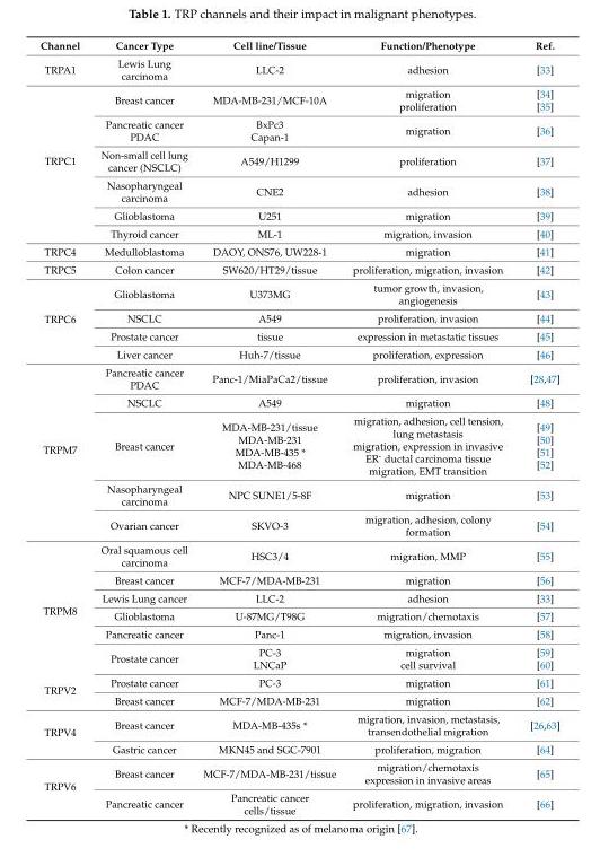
<table><thead><tr><td>Channel</td><td>Cancer Type</td><td>Cell line/Tissue</td><td>Function/Phenotype</td><td>Ref.</td></tr></thead><tbody><tr><td>TRPA1</td><td>Lewis Lung carcinoma</td><td>LLC-2</td><td>adhesion</td><td>[33]</td></tr><tr><td rowspan="6">TRPC1</td><td>Breast cancer</td><td>MDA-MB-231/MCF-10A</td><td>migration proliferation</td><td>[34] [35]</td></tr><tr><td>Pancreatic cancer PDAC</td><td>BxPc3 Capan-1</td><td>migration</td><td>[36]</td></tr><tr><td>Non-small cell lung cancer (NSCLC)</td><td>A549/H1299</td><td>proliferation</td><td>[37]</td></tr><tr><td>Nasopharyngeal carcinoma</td><td>CNE2</td><td>adhesion</td><td>[38]</td></tr><tr><td>Glioblastoma</td><td>U251</td><td>migration</td><td>[39]</td></tr><tr><td>Thyroid cancer</td><td>ML-1</td><td>migration, invasion</td><td>[40]</td></tr><tr><td>TRPC4</td><td>Medulloblastoma</td><td>DAOY, ONS76, UW228-1</td><td>migration</td><td>[41]</td></tr><tr><td>TRPC5</td><td>Colon cancer</td><td>SW620/HT29/tissue</td><td>proliferation, migration, invasion</td><td>[42]</td></tr><tr><td rowspan="4">TRPC6</td><td>Glioblastoma</td><td>U373MG</td><td>tumor growth, invasion, angiogenesis</td><td>[43]</td></tr><tr><td>NSCLC</td><td>A549</td><td>proliferation, invasion</td><td>[44]</td></tr><tr><td>Prostate cancer</td><td>tissue</td><td>expression in metastatic tissues</td><td>[45]</td></tr><tr><td>Liver cancer</td><td>Huh-7/tissue</td><td>proliferation, expression</td><td>[46]</td></tr><tr><td rowspan="5">TRPM7</td><td>Pancreatic cancer PDAC</td><td>Panc-1/MiaPaCa2/tissue</td><td>proliferation, invasion</td><td>[28,47]</td></tr><tr><td>NSCLC</td><td>A549</td><td>migration</td><td>[48]</td></tr><tr><td>Breast cancer</td><td>MDA-MB-231/tissue MDA-MB-231 MDA-MB-435 * MDA-MB-468</td><td>migration, adhesion, cell tension, lung metastasis migration, expression in invasive ER<sup>-</sup> ductal carcinoma tissue migration, EMT transition</td><td>[49] [50] [51] [52]</td></tr><tr><td>Nasopharyngeal carcinoma</td><td>NPC SUNE1/5-8F</td><td>migration</td><td>[53]</td></tr><tr><td>Ovarian cancer</td><td>SKVO-3</td><td>migration, adhesion, colony formation</td><td>[54]</td></tr><tr><td rowspan="6">TRPM8</td><td>Oral squamous cell carcinoma</td><td>HSC3/4</td><td>migration, MMP</td><td>[55]</td></tr><tr><td>Breast cancer</td><td>MCF-7/MDA-MB-231</td><td>migration</td><td>[56]</td></tr><tr><td>Lewis Lung cancer</td><td>LLC-2</td><td>adhesion</td><td>[33]</td></tr><tr><td>Glioblastoma</td><td>U-87MG/T98G</td><td>migration/chemotaxis</td><td>[57]</td></tr><tr><td>Pancreatic cancer</td><td>Panc-1</td><td>migration, invasion</td><td>[58]</td></tr><tr><td>Prostate cancer</td><td>PC-3 LNCaP</td><td>migration cell survival</td><td>[59] [60]</td></tr><tr><td rowspan="2">TRPV2</td><td>Prostate cancer</td><td>PC-3</td><td>migration</td><td>[61]</td></tr><tr><td>Breast cancer</td><td>MCF-7/MDA-MB-231</td><td>migration</td><td>[62]</td></tr><tr><td rowspan="2">TRPV4</td><td>Breast cancer</td><td>MDA-MB-435s *</td><td>migration, invasion, metastasis, transendothelial migration</td><td>[26,63]</td></tr><tr><td>Gastric cancer</td><td>MKN45 and SGC-7901</td><td>proliferation, migration</td><td>[64]</td></tr><tr><td rowspan="2">TRPV6</td><td>Breast cancer</td><td>MCF-7/MDA-MB-231/tissue</td><td>migration/chemotaxis expression in invasive areas</td><td>[65]</td></tr><tr><td>Pancreatic cancer</td><td>Pancreatic cancer cells/tissue</td><td>proliferation, migration, invasion</td><td>[66]</td></tr></tbody></table>